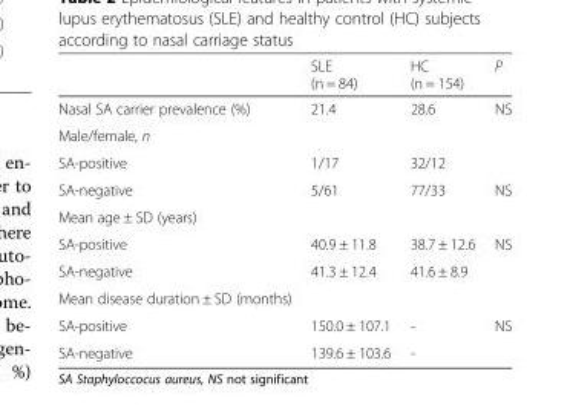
<table><thead><tr><td></td><td>SLE (n = 84)</td><td>HC (n = 154)</td><td>P</td></tr></thead><tbody><tr><td>Nasal SA carrier prevalence (%)</td><td>21.4</td><td>28.6</td><td>NS</td></tr><tr><td colspan="4">Male/female, n</td></tr><tr><td>SA-positive</td><td>1/17</td><td>32/12</td><td></td></tr><tr><td>SA-negative</td><td>5/61</td><td>77/33</td><td>NS</td></tr><tr><td colspan="4">Mean age ± SD (years)</td></tr><tr><td>SA-positive</td><td>40.9 ± 11.8</td><td>38.7 ± 12.6</td><td>NS</td></tr><tr><td>SA-negative</td><td>41.3 ± 12.4</td><td>41.6 ± 8.9</td><td></td></tr><tr><td colspan="4">Mean disease duration ± SD (months)</td></tr><tr><td>SA-positive</td><td>150.0 ± 107.1</td><td>-</td><td>NS</td></tr><tr><td>SA-negative</td><td>139.6 ± 103.6</td><td>-</td><td></td></tr></tbody></table>